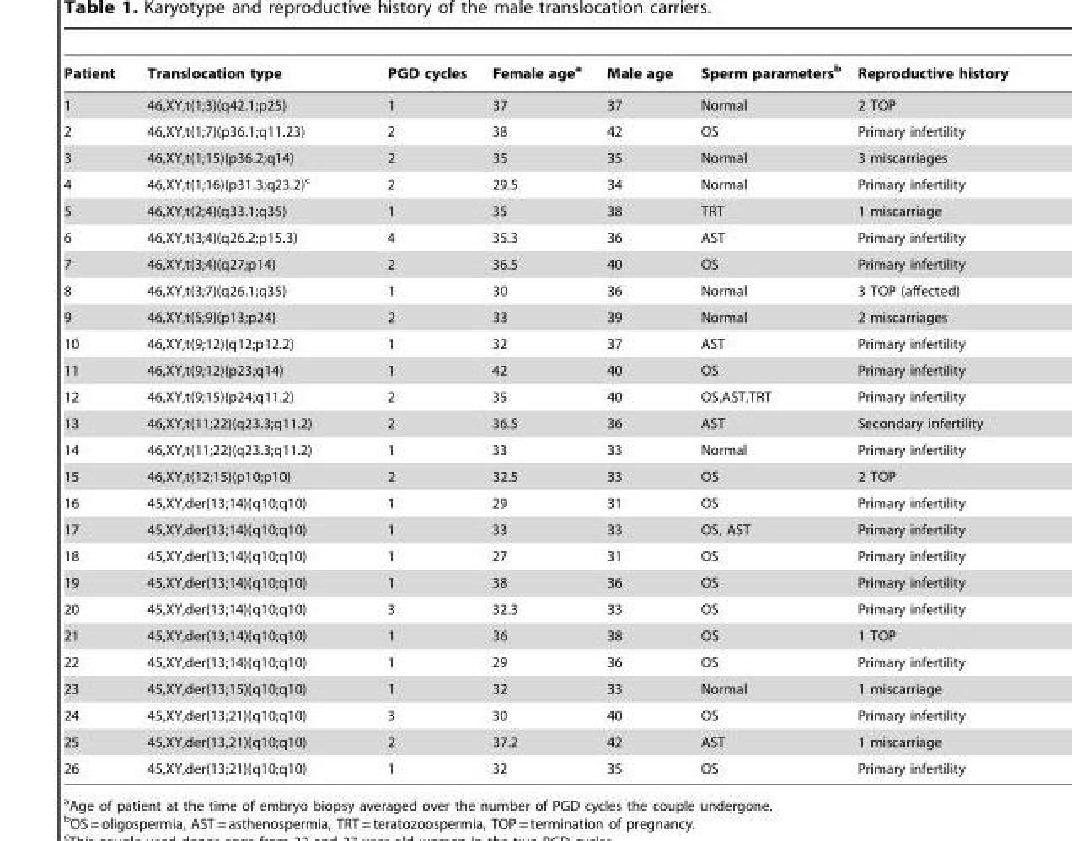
<table><thead><tr><td>Patient</td><td>Translocation type</td><td>PGD cycles</td><td>Female age<sup>a</sup></td><td>Male age</td><td>Sperm parameters<sup>b</sup></td><td>Reproductive history</td></tr></thead><tbody><tr><td>1</td><td>46,XY,t(1;3)(q42.1;p25)</td><td>1</td><td>37</td><td>37</td><td>Normal</td><td>2 TOP</td></tr><tr><td>2</td><td>46,XY,t(1;7)(p36.1;q11.23)</td><td>2</td><td>38</td><td>42</td><td>OS</td><td>Primary infertility</td></tr><tr><td>3</td><td>46,XY,t(1;15)(p36.2;q14)</td><td>2</td><td>35</td><td>35</td><td>Normal</td><td>3 miscarriages</td></tr><tr><td>4</td><td>46,XY,t(1;16)(p31.3;q23.2)<sup>c</sup></td><td>2</td><td>29.5</td><td>34</td><td>Normal</td><td>Primary infertility</td></tr><tr><td>5</td><td>46,XY,t(2;4)(q33.1;q35)</td><td>1</td><td>35</td><td>38</td><td>TRT</td><td>1 miscarriage</td></tr><tr><td>6</td><td>46,XY,t(3;4)(q26.2;p15.3)</td><td>4</td><td>35.3</td><td>36</td><td>AST</td><td>Primary infertility</td></tr><tr><td>7</td><td>46,XY,t(3;4)(q27;p14)</td><td>2</td><td>36.5</td><td>40</td><td>OS</td><td>Primary infertility</td></tr><tr><td>8</td><td>46,XY,t(3;7)(q26.1;q35)</td><td>1</td><td>30</td><td>36</td><td>Normal</td><td>3 TOP (affected)</td></tr><tr><td>9</td><td>46,XY,t(5;9)(p13;p24)</td><td>2</td><td>33</td><td>39</td><td>Normal</td><td>2 miscarriages</td></tr><tr><td>10</td><td>46,XY,t(9;12)(q12;p12.2)</td><td>1</td><td>32</td><td>37</td><td>AST</td><td>Primary infertility</td></tr><tr><td>11</td><td>46,XY,t(9;12)(p23;q14)</td><td>1</td><td>42</td><td>40</td><td>OS</td><td>Primary infertility</td></tr><tr><td>12</td><td>46,XY,t(9;15)(p24;q11.2)</td><td>2</td><td>35</td><td>40</td><td>OS,AST,TRT</td><td>Primary infertility</td></tr><tr><td>13</td><td>46,XY,t(11;22)(q23.3;q11.2)</td><td>2</td><td>36.5</td><td>36</td><td>AST</td><td>Secondary infertility</td></tr><tr><td>14</td><td>46,XY,t(11;22)(q23.3;q11.2)</td><td>1</td><td>33</td><td>33</td><td>Normal</td><td>Primary infertility</td></tr><tr><td>15</td><td>46,XY,t(12;15)(p10;p10)</td><td>2</td><td>32.5</td><td>33</td><td>OS</td><td>2 TOP</td></tr><tr><td>16</td><td>45,XY,der(13;14)(q10;q10)</td><td>1</td><td>29</td><td>31</td><td>OS</td><td>Primary infertility</td></tr><tr><td>17</td><td>45,XY,der(13;14)(q10;q10)</td><td>1</td><td>33</td><td>33</td><td>OS, AST</td><td>Primary infertility</td></tr><tr><td>18</td><td>45,XY,der(13;14)(q10;q10)</td><td>1</td><td>27</td><td>31</td><td>OS</td><td>Primary infertility</td></tr><tr><td>19</td><td>45,XY,der(13;14)(q10;q10)</td><td>1</td><td>38</td><td>36</td><td>OS</td><td>Primary infertility</td></tr><tr><td>20</td><td>45,XY,der(13;14)(q10;q10)</td><td>3</td><td>32.3</td><td>33</td><td>OS</td><td>Primary infertility</td></tr><tr><td>21</td><td>45,XY,der(13;14)(q10;q10)</td><td>1</td><td>36</td><td>38</td><td>OS</td><td>1 TOP</td></tr><tr><td>22</td><td>45,XY,der(13;14)(q10;q10)</td><td>1</td><td>29</td><td>36</td><td>OS</td><td>Primary infertility</td></tr><tr><td>23</td><td>45,XY,der(13;15)(q10;q10)</td><td>1</td><td>32</td><td>33</td><td>Normal</td><td>1 miscarriage</td></tr><tr><td>24</td><td>45,XY,der(13;21)(q10;q10)</td><td>3</td><td>30</td><td>40</td><td>OS</td><td>Primary infertility</td></tr><tr><td>25</td><td>45,XY,der(13,21)(q10;q10)</td><td>2</td><td>37.2</td><td>42</td><td>AST</td><td>1 miscarriage</td></tr><tr><td>26</td><td>45,XY,der(13;21)(q10;q10)</td><td>1</td><td>32</td><td>35</td><td>OS</td><td>Primary infertility</td></tr></tbody></table>